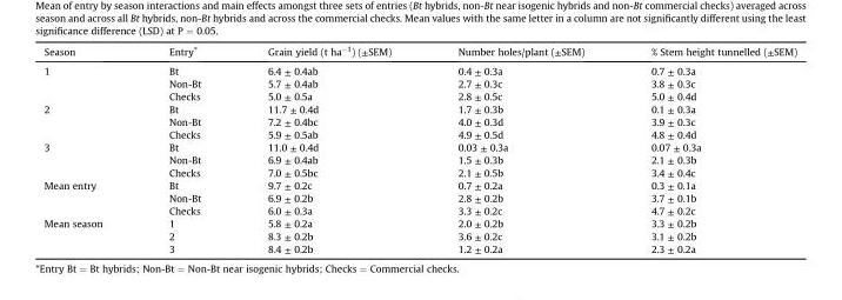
<table><thead><tr><td>Season</td><td>Entry*</td><td>Grain yield (t ha<sup>−1</sup>) (±SEM)</td><td>Number holes/plant (±SEM)</td><td>% Stem height tunnelled (±SEM)</td></tr></thead><tbody><tr><td rowspan="3">1</td><td>Bt</td><td>6.4 ± 0.4ab</td><td>0.4 ± 0.3a</td><td>0.7 ± 0.3a</td></tr><tr><td>Non-Bt</td><td>5.7 ± 0.4ab</td><td>2.7 ± 0.3c</td><td>3.8 ± 0.3c</td></tr><tr><td>Checks</td><td>5.0 ± 0.5a</td><td>2.8 ± 0.5c</td><td>5.0 ± 0.4d</td></tr><tr><td rowspan="3">2</td><td>Bt</td><td>11.7 ± 0.4d</td><td>1.7 ± 0.3b</td><td>0.1 ± 0.3a</td></tr><tr><td>Non-Bt</td><td>7.2 ± 0.4bc</td><td>4.0 ± 0.3d</td><td>3.9 ± 0.3c</td></tr><tr><td>Checks</td><td>5.9 ± 0.5ab</td><td>4.9 ± 0.5d</td><td>4.8 ± 0.4d</td></tr><tr><td rowspan="3">3</td><td>Bt</td><td>11.0 ± 0.4d</td><td>0.03 ± 0.3a</td><td>0.07 ± 0.3a</td></tr><tr><td>Non-Bt</td><td>6.9 ± 0.4ab</td><td>1.5 ± 0.3b</td><td>2.1 ± 0.3b</td></tr><tr><td>Checks</td><td>7.0 ± 0.5bc</td><td>2.1 ± 0.5b</td><td>3.4 ± 0.4c</td></tr><tr><td rowspan="3">Mean entry</td><td>Bt</td><td>9.7 ± 0.2c</td><td>0.7 ± 0.2a</td><td>0.3 ± 0.1a</td></tr><tr><td>Non-Bt</td><td>6.9 ± 0.2b</td><td>2.8 ± 0.2b</td><td>3.7 ± 0.1b</td></tr><tr><td>Checks</td><td>6.0 ± 0.3a</td><td>3.3 ± 0.2c</td><td>4.7 ± 0.2c</td></tr><tr><td rowspan="3">Mean season</td><td>1</td><td>5.8 ± 0.2a</td><td>2.0 ± 0.2b</td><td>3.3 ± 0.2b</td></tr><tr><td>2</td><td>8.3 ± 0.2b</td><td>3.6 ± 0.2c</td><td>3.1 ± 0.2b</td></tr><tr><td>3</td><td>8.4 ± 0.2b</td><td>1.2 ± 0.2a</td><td>2.3 ± 0.2a</td></tr></tbody></table>